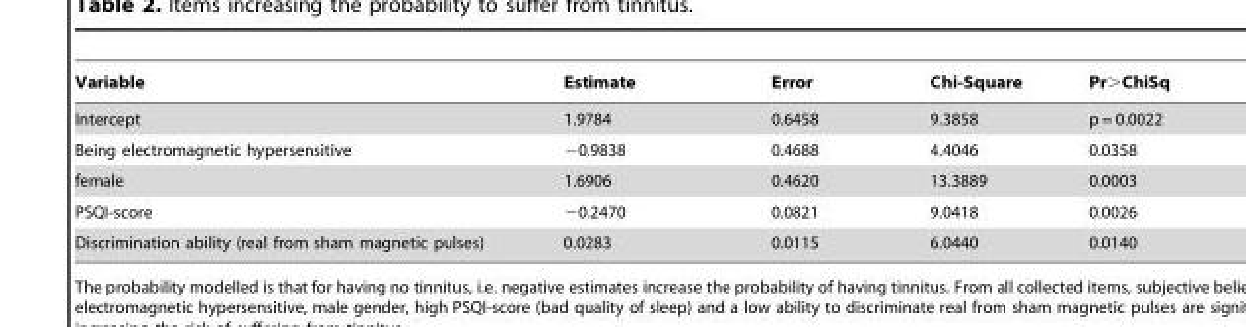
<table><thead><tr><td>Variable</td><td>Estimate</td><td>Error</td><td>Chi-Square</td><td>Pr&gt;ChiSq</td></tr></thead><tbody><tr><td>Intercept</td><td>1.9784</td><td>0.6458</td><td>9.3858</td><td>p = 0.0022</td></tr><tr><td>Being electromagnetic hypersensitive</td><td>−0.9838</td><td>0.4688</td><td>4.4046</td><td>0.0358</td></tr><tr><td>female</td><td>1.6906</td><td>0.4620</td><td>13.3889</td><td>0.0003</td></tr><tr><td>PSQI-score</td><td>−0.2470</td><td>0.0821</td><td>9.0418</td><td>0.0026</td></tr><tr><td>Discrimination ability (real from sham magnetic pulses)</td><td>0.0283</td><td>0.0115</td><td>6.0440</td><td>0.0140</td></tr></tbody></table>